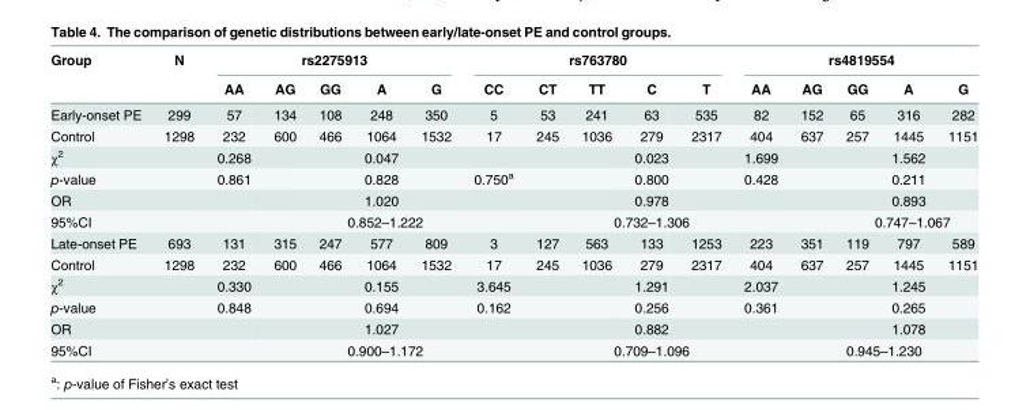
<table><thead><tr><td rowspan="2">Group</td><td rowspan="2">N</td><td colspan="5">rs2275913</td><td colspan="5">rs763780</td><td colspan="5">rs4819554</td></tr><tr><td>AA</td><td>AG</td><td>GG</td><td>A</td><td>G</td><td>CC</td><td>CT</td><td>TT</td><td>C</td><td>T</td><td>AA</td><td>AG</td><td>GG</td><td>A</td><td>G</td></tr></thead><tbody><tr><td>Early-onset PE</td><td>299</td><td>57</td><td>134</td><td>108</td><td>248</td><td>350</td><td>5</td><td>53</td><td>241</td><td>63</td><td>535</td><td>82</td><td>152</td><td>65</td><td>316</td><td>282</td></tr><tr><td>Control</td><td>1298</td><td>232</td><td>600</td><td>466</td><td>1064</td><td>1532</td><td>17</td><td>245</td><td>1036</td><td>279</td><td>2317</td><td>404</td><td>637</td><td>257</td><td>1445</td><td>1151</td></tr><tr><td>χ<sup>2</sup></td><td></td><td>0.268</td><td></td><td></td><td>0.047</td><td></td><td></td><td></td><td></td><td>0.023</td><td></td><td>1.699</td><td></td><td></td><td>1.562</td><td></td></tr><tr><td>p-value</td><td></td><td>0.861</td><td></td><td></td><td>0.828</td><td></td><td>0.750<sup>a</sup></td><td></td><td></td><td>0.800</td><td></td><td>0.428</td><td></td><td></td><td>0.211</td><td></td></tr><tr><td>OR</td><td></td><td></td><td></td><td></td><td>1.020</td><td></td><td></td><td></td><td></td><td>0.978</td><td></td><td></td><td></td><td></td><td>0.893</td><td></td></tr><tr><td>95%CI</td><td></td><td></td><td></td><td colspan="3">0.852–1.222</td><td></td><td></td><td colspan="3">0.732–1.306</td><td></td><td></td><td colspan="3">0.747–1.067</td></tr><tr><td>Late-onset PE</td><td>693</td><td>131</td><td>315</td><td>247</td><td>577</td><td>809</td><td>3</td><td>127</td><td>563</td><td>133</td><td>1253</td><td>223</td><td>351</td><td>119</td><td>797</td><td>589</td></tr><tr><td>Control</td><td>1298</td><td>232</td><td>600</td><td>466</td><td>1064</td><td>1532</td><td>17</td><td>245</td><td>1036</td><td>279</td><td>2317</td><td>404</td><td>637</td><td>257</td><td>1445</td><td>1151</td></tr><tr><td>χ<sup>2</sup></td><td></td><td>0.330</td><td></td><td></td><td>0.155</td><td></td><td>3.645</td><td></td><td></td><td>1.291</td><td></td><td>2.037</td><td></td><td></td><td>1.245</td><td></td></tr><tr><td>p-value</td><td></td><td>0.848</td><td></td><td></td><td>0.694</td><td></td><td>0.162</td><td></td><td></td><td>0.256</td><td></td><td>0.361</td><td></td><td></td><td>0.265</td><td></td></tr><tr><td>OR</td><td></td><td></td><td></td><td></td><td>1.027</td><td></td><td></td><td></td><td></td><td>0.882</td><td></td><td></td><td></td><td></td><td>1.078</td><td></td></tr><tr><td>95%CI</td><td></td><td></td><td></td><td colspan="3">0.900–1.172</td><td></td><td></td><td colspan="3">0.709–1.096</td><td></td><td></td><td colspan="3">0.945–1.230</td></tr></tbody></table>